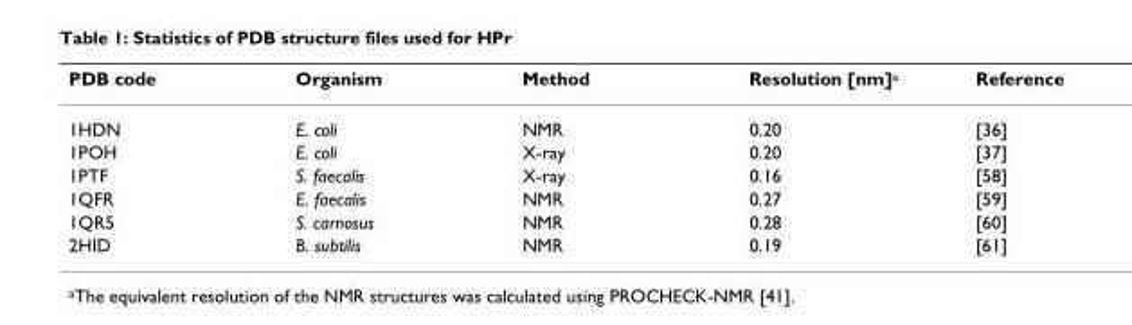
<table><thead><tr><td>PDB code</td><td>Organism</td><td>Method</td><td>Resolution [nm]a</td><td>Reference</td></tr></thead><tbody><tr><td>1HDN</td><td>E. coli</td><td>NMR</td><td>0.20</td><td>[36]</td></tr><tr><td>1POH</td><td>E. coli</td><td>X-ray</td><td>0.20</td><td>[37]</td></tr><tr><td>1PTF</td><td>S. faecalis</td><td>X-ray</td><td>0.16</td><td>[58]</td></tr><tr><td>1QFR</td><td>E. faecalis</td><td>NMR</td><td>0.27</td><td>[59]</td></tr><tr><td>1QR5</td><td>S. carnosus</td><td>NMR</td><td>0.28</td><td>[60]</td></tr><tr><td>2HID</td><td>B. subtilis</td><td>NMR</td><td>0.19</td><td>[61]</td></tr></tbody></table>